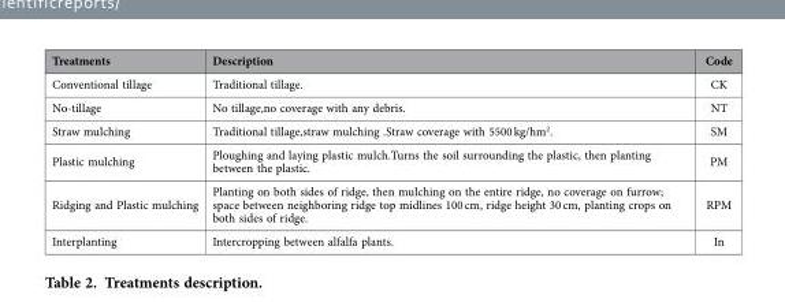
<table><thead><tr><td>Treatments</td><td>Description</td><td>Code</td></tr></thead><tbody><tr><td>Conventional tillage</td><td>Traditional tillage.</td><td>CK</td></tr><tr><td>No-tillage</td><td>No tillage,no coverage with any debris.</td><td>NT</td></tr><tr><td>Straw mulching</td><td>Traditional tillage,straw mulching .Straw coverage with 5500 kg/hm<sup>2</sup>.</td><td>SM</td></tr><tr><td>Plastic mulching</td><td>Ploughing and laying plastic mulch.Turns the soil surrounding the plastic, then planting between the plastic.</td><td>PM</td></tr><tr><td>Ridging and Plastic mulching</td><td>Planting on both sides of ridge, then mulching on the entire ridge, no coverage on furrow; space between neighboring ridge top midlines 100 cm, ridge height 30 cm, planting crops on both sides of ridge.</td><td>RPM</td></tr><tr><td>Interplanting</td><td>Intercropping between alfalfa plants.</td><td>In</td></tr></tbody></table>